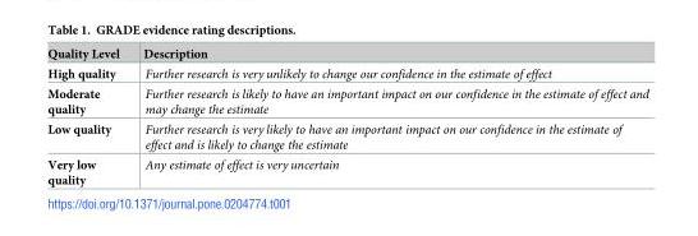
<table><thead><tr><td>Quality Level</td><td>Description</td></tr></thead><tbody><tr><td>High quality</td><td>Further research is very unlikely to change our confidence in the estimate of effect</td></tr><tr><td>Moderate quality</td><td>Further research is likely to have an important impact on our confidence in the estimate of effect and may change the estimate</td></tr><tr><td>Low quality</td><td>Further research is very likely to have an important impact on our confidence in the estimate of effect and is likely to change the estimate</td></tr><tr><td>Very low quality</td><td>Any estimate of effect is very uncertain</td></tr></tbody></table>